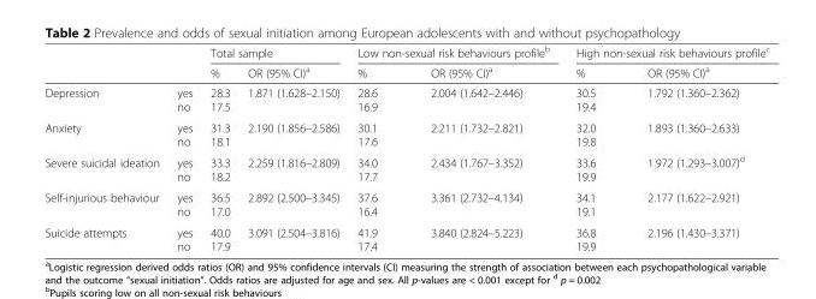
<table><thead><tr><td rowspan="2"></td><td rowspan="2"></td><td colspan="2">Total sample</td><td colspan="2">Low non-sexual risk behaviours profile<sup>b</sup></td><td colspan="2">High non-sexual risk behaviours profile<sup>c</sup></td></tr><tr><td>%</td><td>OR (95% CI)<sup>a</sup></td><td>%</td><td>OR (95% CI)<sup>a</sup></td><td>%</td><td>OR (95% CI)<sup>a</sup></td></tr></thead><tbody><tr><td>Depression</td><td>yes no</td><td>28.3 17.5</td><td>1.871 (1.628–2.150)</td><td>28.6 16.9</td><td>2.004 (1.642–2.446)</td><td>30.5 19.4</td><td>1.792 (1.360–2.362)</td></tr><tr><td>Anxiety</td><td>yes no</td><td>31.3 18.1</td><td>2.190 (1.856–2.586)</td><td>30.1 17.6</td><td>2.211 (1.732–2.821)</td><td>32.0 19.8</td><td>1.893 (1.360–2.633)</td></tr><tr><td>Severe suicidal ideation</td><td>yes no</td><td>33.3 18.2</td><td>2.259 (1.816–2.809)</td><td>34.0 17.7</td><td>2.434 (1.767–3.352)</td><td>33.6 19.9</td><td>1.972 (1.293–3.007)<sup>d</sup></td></tr><tr><td>Self-injurious behaviour</td><td>yes no</td><td>36.5 17.0</td><td>2.892 (2.500–3.345)</td><td>37.6 16.4</td><td>3.361 (2.732–4.134)</td><td>34.1 19.1</td><td>2.177 (1.622–2.921)</td></tr><tr><td>Suicide attempts</td><td>yes no</td><td>40.0 17.9</td><td>3.091 (2.504–3.816)</td><td>41.9 17.4</td><td>3.840 (2.824–5.223)</td><td>36.8 19.9</td><td>2.196 (1.430–3.371)</td></tr></tbody></table>